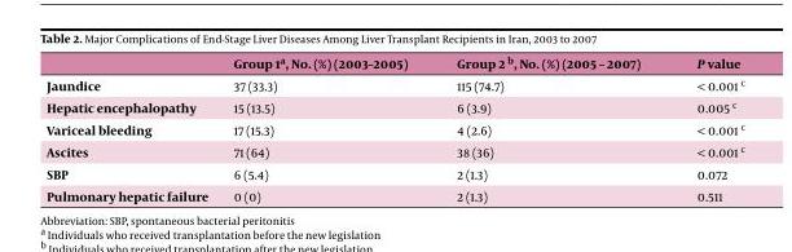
<table><thead><tr><td></td><td>Group 1<sup>a</sup>, No. (%) (2003–2005)</td><td>Group 2 b, No. (%) (2005 – 2007)</td><td>P value</td></tr></thead><tbody><tr><td>Jaundice</td><td>37 (33.3)</td><td>115 (74.7)</td><td>&lt; 0.001 c</td></tr><tr><td>Hepatic encephalopathy</td><td>15 (13.5)</td><td>6 (3.9)</td><td>0.005 c</td></tr><tr><td>Variceal bleeding</td><td>17 (15.3)</td><td>4 (2.6)</td><td>&lt; 0.001 c</td></tr><tr><td>Ascites</td><td>71 (64)</td><td>38 (36)</td><td>&lt; 0.001 c</td></tr><tr><td>SBP</td><td>6 (5.4)</td><td>2 (1.3)</td><td>0.072</td></tr><tr><td>Pulmonary hepatic failure</td><td>0 (0)</td><td>2 (1.3)</td><td>0.511</td></tr></tbody></table>